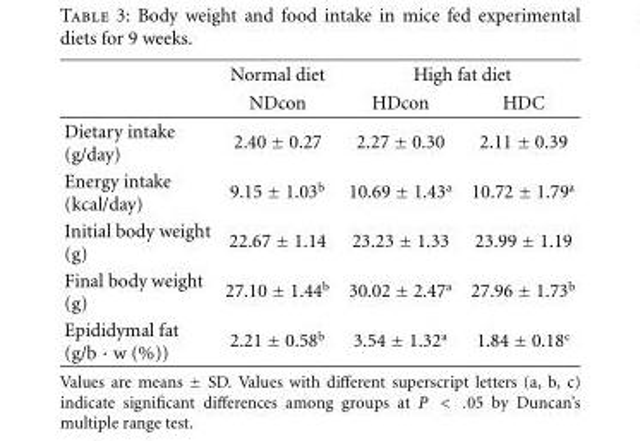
<table><thead><tr><td rowspan="2"></td><td rowspan="2">Normal diet NDcon</td><td colspan="2">High fat diet</td></tr><tr><td>HDcon</td><td>HDC</td></tr></thead><tbody><tr><td>Dietary intake (g/day)</td><td>2.40 ± 0.27</td><td>2.27 ± 0.30</td><td>2.11 ± 0.39</td></tr><tr><td>Energy intake (kcal/day)</td><td>9.15 ± 1.03<sup>b</sup></td><td>10.69 ± 1.43<sup>a</sup></td><td>10.72 ± 1.79<sup>a</sup></td></tr><tr><td>Initial body weight (g)</td><td>22.67 ± 1.14</td><td>23.23 ± 1.33</td><td>23.99 ± 1.19</td></tr><tr><td>Final body weight (g)</td><td>27.10 ± 1.44<sup>b</sup></td><td>30.02 ± 2.47<sup>a</sup></td><td>27.96 ± 1.73<sup>b</sup></td></tr><tr><td>Epididymal fat (g/b · w (%))</td><td>2.21 ± 0.58<sup>b</sup></td><td>3.54 ± 1.32<sup>a</sup></td><td>1.84 ± 0.18<sup>c</sup></td></tr></tbody></table>